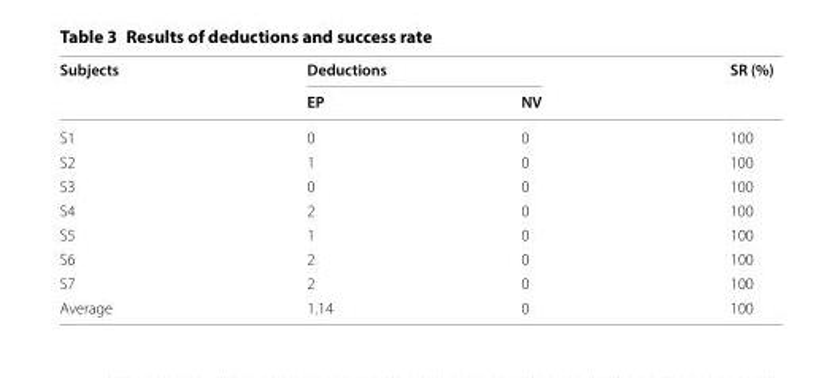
<table><thead><tr><td rowspan="2">Subjects</td><td colspan="2">Deductions</td><td rowspan="2">SR (%)</td></tr><tr><td>EP</td><td>NV</td></tr></thead><tbody><tr><td>S1</td><td>0</td><td>0</td><td>100</td></tr><tr><td>S2</td><td>1</td><td>0</td><td>100</td></tr><tr><td>S3</td><td>0</td><td>0</td><td>100</td></tr><tr><td>S4</td><td>2</td><td>0</td><td>100</td></tr><tr><td>S5</td><td>1</td><td>0</td><td>100</td></tr><tr><td>S6</td><td>2</td><td>0</td><td>100</td></tr><tr><td>S7</td><td>2</td><td>0</td><td>100</td></tr><tr><td>Average</td><td>1.14</td><td>0</td><td>100</td></tr></tbody></table>